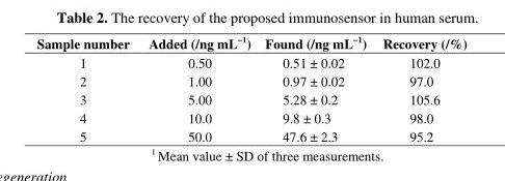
<table><thead><tr><td>Sample number</td><td>Added (/ng mL<sup>−1</sup>)</td><td>Found (/ng mL<sup>−1</sup>)</td><td>Recovery (/%)</td></tr></thead><tbody><tr><td>1</td><td>0.50</td><td>0.51 ± 0.02</td><td>102.0</td></tr><tr><td>2</td><td>1.00</td><td>0.97 ± 0.02</td><td>97.0</td></tr><tr><td>3</td><td>5.00</td><td>5.28 ± 0.2</td><td>105.6</td></tr><tr><td>4</td><td>10.0</td><td>9.8 ± 0.3</td><td>98.0</td></tr><tr><td>5</td><td>50.0</td><td>47.6 ± 2.3</td><td>95.2</td></tr></tbody></table>